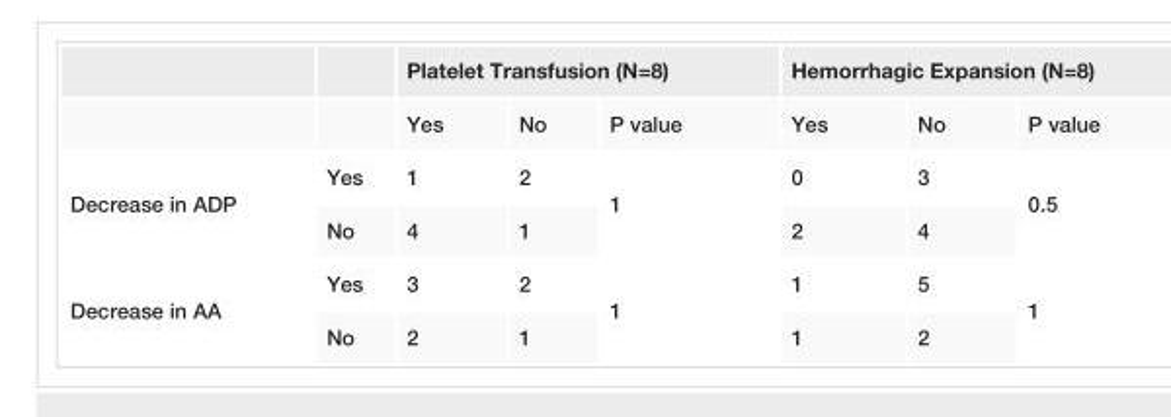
<table><thead><tr><td rowspan="2"></td><td rowspan="2"></td><td colspan="3">Platelet Transfusion (N=8)</td><td colspan="3">Hemorrhagic Expansion (N=8)</td></tr><tr><td>Yes</td><td>No</td><td>P value</td><td>Yes</td><td>No</td><td>P value</td></tr></thead><tbody><tr><td rowspan="2">Decrease in ADP</td><td>Yes</td><td>1</td><td>2</td><td rowspan="2">1</td><td>0</td><td>3</td><td rowspan="2">0.5</td></tr><tr><td>No</td><td>4</td><td>1</td><td>2</td><td>4</td></tr><tr><td rowspan="2">Decrease in AA</td><td>Yes</td><td>3</td><td>2</td><td rowspan="2">1</td><td>1</td><td>5</td><td rowspan="2">1</td></tr><tr><td>No</td><td>2</td><td>1</td><td>1</td><td>2</td></tr></tbody></table>